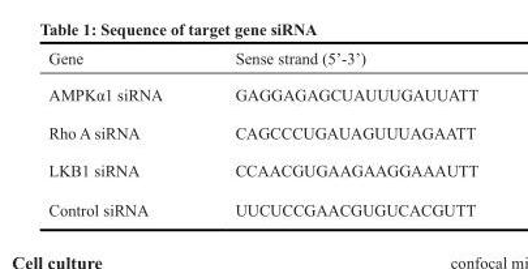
<table><thead><tr><td>Gene</td><td>Sense strand (5’-3’)</td></tr></thead><tbody><tr><td>AMPKα1 siRNA</td><td>GAGGAGAGCUAUUUGAUUATT</td></tr><tr><td>Rho A siRNA</td><td>CAGCCCUGAUAGUUUAGAATT</td></tr><tr><td>LKB1 siRNA</td><td>CCAACGUGAAGAAGGAAAUTT</td></tr><tr><td>Control siRNA</td><td>UUCUCCGAACGUGUCACGUTT</td></tr></tbody></table>